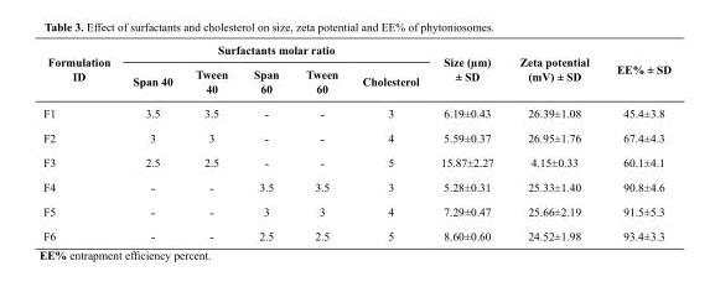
<table><thead><tr><td rowspan="2">Formulation ID</td><td colspan="5">Surfactants molar ratio</td><td rowspan="2">Size (µm) ± SD</td><td rowspan="2">Zeta potential (mV) ± SD</td><td rowspan="2">EE% ± SD</td></tr><tr><td>Span 40</td><td>Tween 40</td><td>Span 60</td><td>Tween 60</td><td>Cholesterol</td></tr></thead><tbody><tr><td>F1</td><td>3.5</td><td>3.5</td><td>˗</td><td>˗</td><td>3</td><td>6.19±0.43</td><td>26.39±1.08</td><td>45.4±3.8</td></tr><tr><td>F2</td><td>3</td><td>3</td><td>˗</td><td>˗</td><td>4</td><td>5.59±0.37</td><td>26.95±1.76</td><td>67.4±4.3</td></tr><tr><td>F3</td><td>2.5</td><td>2.5</td><td>˗</td><td>˗</td><td>5</td><td>15.87±2.27</td><td>4.15±0.33</td><td>60.1±4.1</td></tr><tr><td>F4</td><td>˗</td><td>˗</td><td>3.5</td><td>3.5</td><td>3</td><td>5.28±0.31</td><td>25.33±1.40</td><td>90.8±4.6</td></tr><tr><td>F5</td><td>˗</td><td>˗</td><td>3</td><td>3</td><td>4</td><td>7.29±0.47</td><td>25.66±2.19</td><td>91.5±5.3</td></tr><tr><td>F6</td><td>˗</td><td>˗</td><td>2.5</td><td>2.5</td><td>5</td><td>8.60±0.60</td><td>24.52±1.98</td><td>93.4±3.3</td></tr></tbody></table>